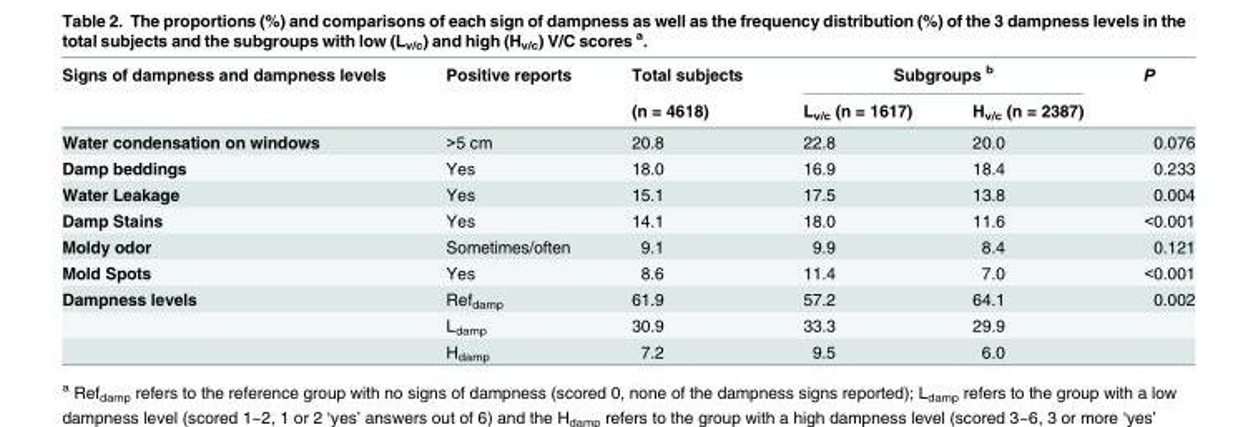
<table><thead><tr><td rowspan="2">Signs of dampness and dampness levels</td><td rowspan="2">Positive reports</td><td rowspan="2">Total subjects (n = 4618)</td><td colspan="2">Subgroups <sup>b</sup></td><td rowspan="2">P</td></tr><tr><td>L<sub>v/c</sub> (n = 1617)</td><td>H<sub>v/c</sub> (n = 2387)</td></tr></thead><tbody><tr><td>Water condensation on windows</td><td>&gt;5 cm</td><td>20.8</td><td>22.8</td><td>20.0</td><td>0.076</td></tr><tr><td>Damp beddings</td><td>Yes</td><td>18.0</td><td>16.9</td><td>18.4</td><td>0.233</td></tr><tr><td>Water Leakage</td><td>Yes</td><td>15.1</td><td>17.5</td><td>13.8</td><td>0.004</td></tr><tr><td>Damp Stains</td><td>Yes</td><td>14.1</td><td>18.0</td><td>11.6</td><td>&lt;0.001</td></tr><tr><td>Moldy odor</td><td>Sometimes/often</td><td>9.1</td><td>9.9</td><td>8.4</td><td>0.121</td></tr><tr><td>Mold Spots</td><td>Yes</td><td>8.6</td><td>11.4</td><td>7.0</td><td>&lt;0.001</td></tr><tr><td rowspan="3">Dampness levels</td><td>Ref<sub>damp</sub></td><td>61.9</td><td>57.2</td><td>64.1</td><td>0.002</td></tr><tr><td>L<sub>damp</sub></td><td>30.9</td><td>33.3</td><td>29.9</td><td></td></tr><tr><td>H<sub>damp</sub></td><td>7.2</td><td>9.5</td><td>6.0</td><td></td></tr></tbody></table>